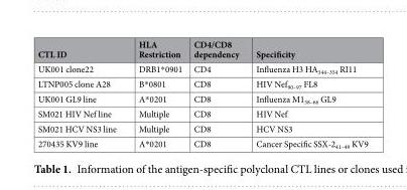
<table><thead><tr><td>CTL ID</td><td>HLA Restriction</td><td>CD4/CD8 dependency</td><td>Specificity</td></tr></thead><tbody><tr><td>UK001 clone22</td><td>DRB1*0901</td><td>CD4</td><td>Influenza H3 HA<sub>344–354</sub> RI11</td></tr><tr><td>LTNP005 clone A28</td><td>B*0801</td><td>CD8</td><td>HIV Nef<sub>90–97</sub> FL8</td></tr><tr><td>UK001 GL9 line</td><td>A*0201</td><td>CD8</td><td>Influenza M1<sub>58–66</sub> GL9</td></tr><tr><td>SM021 HIV Nef line</td><td>Multiple</td><td>CD8</td><td>HIV Nef</td></tr><tr><td>SM021 HCV NS3 line</td><td>Multiple</td><td>CD8</td><td>HCV NS3</td></tr><tr><td>270435 KV9 line</td><td>A*0201</td><td>CD8</td><td>Cancer Specific SSX-2<sub>41–49</sub> KV9</td></tr></tbody></table>